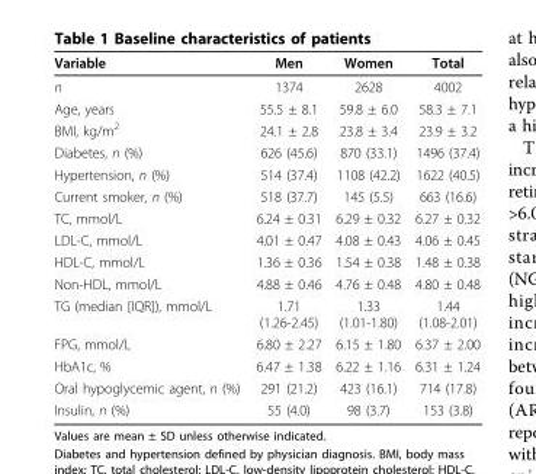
<table><thead><tr><td>Variable</td><td>Men</td><td>Women</td><td>Total</td></tr></thead><tbody><tr><td>n</td><td>1374</td><td>2628</td><td>4002</td></tr><tr><td>Age, years</td><td>55.5 ± 8.1</td><td>59.8 ± 6.0</td><td>58.3 ± 7.1</td></tr><tr><td>BMI, kg/m<sup>2</sup></td><td>24.1 ± 2.8</td><td>23.8 ± 3.4</td><td>23.9 ± 3.2</td></tr><tr><td>Diabetes, n (%)</td><td>626 (45.6)</td><td>870 (33.1)</td><td>1496 (37.4)</td></tr><tr><td>Hypertension, n (%)</td><td>514 (37.4)</td><td>1108 (42.2)</td><td>1622 (40.5)</td></tr><tr><td>Current smoker, n (%)</td><td>518 (37.7)</td><td>145 (5.5)</td><td>663 (16.6)</td></tr><tr><td>TC, mmol/L</td><td>6.24 ± 0.31</td><td>6.29 ± 0.32</td><td>6.27 ± 0.32</td></tr><tr><td>LDL-C, mmol/L</td><td>4.01 ± 0.47</td><td>4.08 ± 0.43</td><td>4.06 ± 0.45</td></tr><tr><td>HDL-C, mmol/L</td><td>1.36 ± 0.36</td><td>1.54 ± 0.38</td><td>1.48 ± 0.38</td></tr><tr><td>Non-HDL, mmol/L</td><td>4.88 ± 0.46</td><td>4.76 ± 0.48</td><td>4.80 ± 0.48</td></tr><tr><td>TG (median [IQR]), mmol/L</td><td>1.71 (1.26-2.45)</td><td>1.33 (1.01-1.80)</td><td>1.44 (1.08-2.01)</td></tr><tr><td>FPG, mmol/L</td><td>6.80 ± 2.27</td><td>6.15 ± 1.80</td><td>6.37 ± 2.00</td></tr><tr><td>HbA1c, %</td><td>6.47 ± 1.38</td><td>6.22 ± 1.16</td><td>6.31 ± 1.24</td></tr><tr><td>Oral hypoglycemic agent, n (%)</td><td>291 (21.2)</td><td>423 (16.1)</td><td>714 (17.8)</td></tr><tr><td>Insulin, n (%)</td><td>55 (4.0)</td><td>98 (3.7)</td><td>153 (3.8)</td></tr></tbody></table>